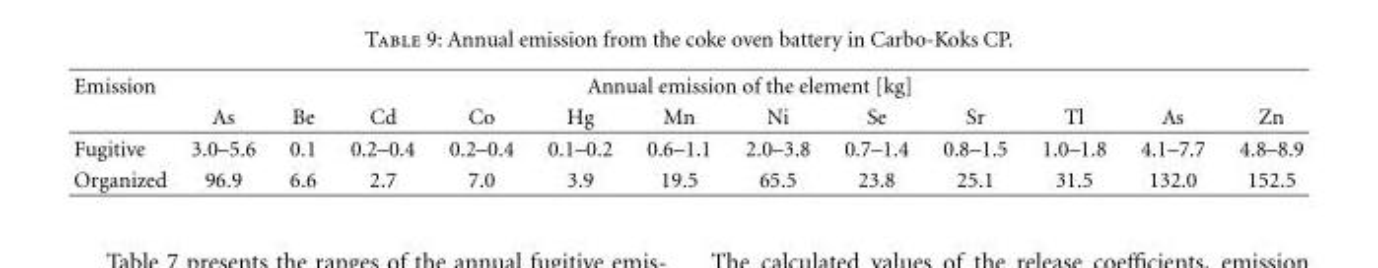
<table><thead><tr><td rowspan="2">Emission</td><td colspan="12">Annual emission of the element [kg]</td></tr><tr><td>As</td><td>Be</td><td>Cd</td><td>Co</td><td>Hg</td><td>Mn</td><td>Ni</td><td>Se</td><td>Sr</td><td>Tl</td><td>As</td><td>Zn</td></tr></thead><tbody><tr><td>Fugitive</td><td>3.0–5.6</td><td>0.1</td><td>0.2–0.4</td><td>0.2–0.4</td><td>0.1–0.2</td><td>0.6–1.1</td><td>2.0–3.8</td><td>0.7–1.4</td><td>0.8–1.5</td><td>1.0–1.8</td><td>4.1–7.7</td><td>4.8–8.9</td></tr><tr><td>Organized</td><td>96.9</td><td>6.6</td><td>2.7</td><td>7.0</td><td>3.9</td><td>19.5</td><td>65.5</td><td>23.8</td><td>25.1</td><td>31.5</td><td>132.0</td><td>152.5</td></tr></tbody></table>